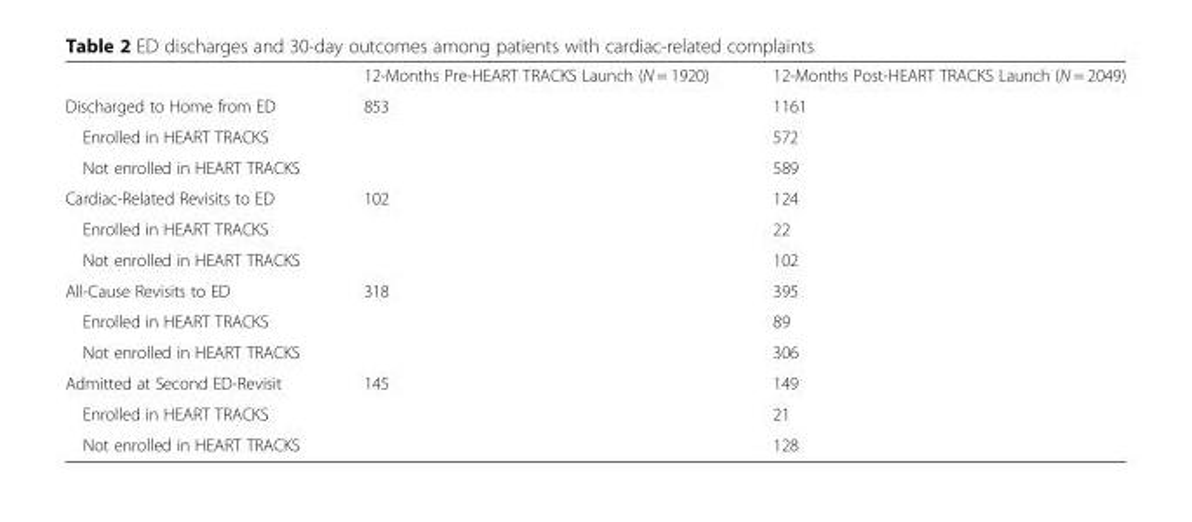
<table><thead><tr><td></td><td>12-Months Pre-HEART TRACKS Launch (N = 1920)</td><td>12-Months Post-HEART TRACKS Launch (N = 2049)</td></tr></thead><tbody><tr><td>Discharged to Home from ED</td><td>853</td><td>1161</td></tr><tr><td>Enrolled in HEART TRACKS</td><td></td><td>572</td></tr><tr><td>Not enrolled in HEART TRACKS</td><td></td><td>589</td></tr><tr><td>Cardiac-Related Revisits to ED</td><td>102</td><td>124</td></tr><tr><td>Enrolled in HEART TRACKS</td><td></td><td>22</td></tr><tr><td>Not enrolled in HEART TRACKS</td><td></td><td>102</td></tr><tr><td>All-Cause Revisits to ED</td><td>318</td><td>395</td></tr><tr><td>Enrolled in HEART TRACKS</td><td></td><td>89</td></tr><tr><td>Not enrolled in HEART TRACKS</td><td></td><td>306</td></tr><tr><td>Admitted at Second ED-Revisit</td><td>145</td><td>149</td></tr><tr><td>Enrolled in HEART TRACKS</td><td></td><td>21</td></tr><tr><td>Not enrolled in HEART TRACKS</td><td></td><td>128</td></tr></tbody></table>